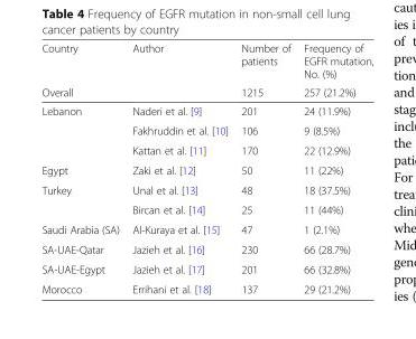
<table><thead><tr><td rowspan="2">Country Overall</td><td rowspan="2">Author</td><td rowspan="2">Number of patients 1215</td><td rowspan="2">Frequency of EGFR mutation, No. (%) 257 (21.2%)</td></tr><tr></tr></thead><tbody><tr><td rowspan="3">Lebanon</td><td>Naderi et al. [9]</td><td>201</td><td>24 (11.9%)</td></tr><tr><td>Fakhruddin et al. [10]</td><td>106</td><td>9 (8.5%)</td></tr><tr><td>Kattan et al. [11]</td><td>170</td><td>22 (12.9%)</td></tr><tr><td>Egypt</td><td>Zaki et al. [12]</td><td>50</td><td>11 (22%)</td></tr><tr><td rowspan="2">Turkey</td><td>Unal et al. [13]</td><td>48</td><td>18 (37.5%)</td></tr><tr><td>Bircan et al. [14]</td><td>25</td><td>11 (44%)</td></tr><tr><td>Saudi Arabia (SA)</td><td>Al-Kuraya et al. [15]</td><td>47</td><td>1 (2.1%)</td></tr><tr><td>SA-UAE-Qatar</td><td>Jazieh et al. [16]</td><td>230</td><td>66 (28.7%)</td></tr><tr><td>SA-UAE-Egypt</td><td>Jazieh et al. [17]</td><td>201</td><td>66 (32.8%)</td></tr><tr><td>Morocco</td><td>Errihani et al. [18]</td><td>137</td><td>29 (21.2%)</td></tr></tbody></table>